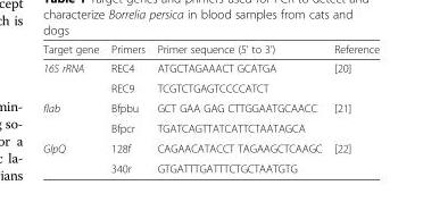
<table><thead><tr><td>Target gene</td><td>Primers</td><td>Primer sequence (5’ to 3’)</td><td>Reference</td></tr></thead><tbody><tr><td rowspan="2">16S rRNA</td><td>REC4</td><td>ATGCTAGAAACT GCATGA</td><td rowspan="2">[20]</td></tr><tr><td>REC9</td><td>TCGTCTGAGTCCCCATCT</td></tr><tr><td rowspan="2">flab</td><td>Bfpbu</td><td>GCT GAA GAG CTTGGAATGCAACC</td><td rowspan="2">[21]</td></tr><tr><td>Bfpcr</td><td>TGATCAGTTATCATTCTAATAGCA</td></tr><tr><td rowspan="2">GlpQ</td><td>128f</td><td>CAGAACATACCT TAGAAGCTCAAGC</td><td rowspan="2">[22]</td></tr><tr><td>340r</td><td>GTGATTTGATTTCTGCTAATGTG</td></tr></tbody></table>